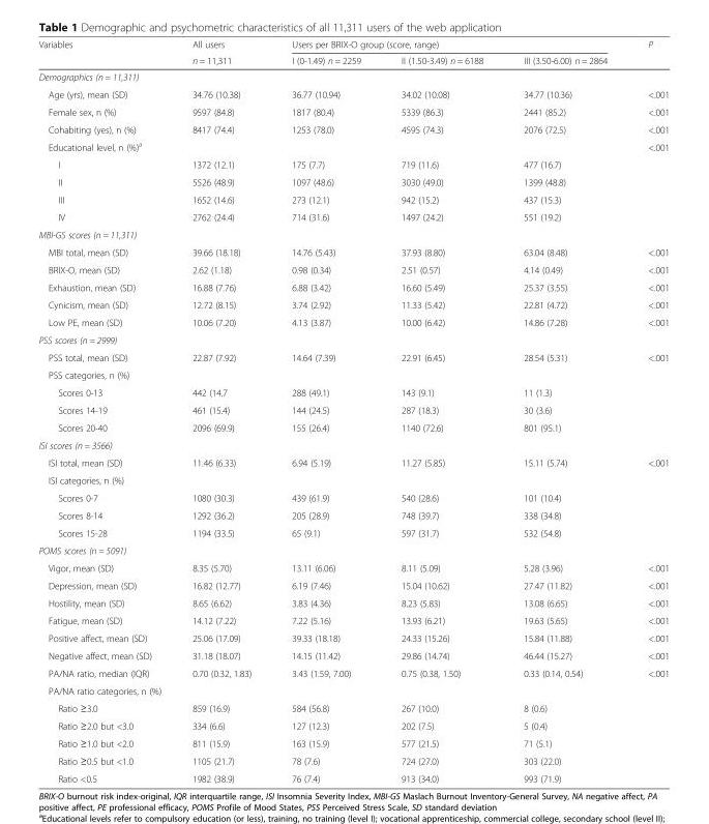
<table><thead><tr><td rowspan="2">Variables</td><td rowspan="2">All users n = 11,311</td><td colspan="3">Users per BRIX-O group (score, range)</td><td rowspan="2">P</td></tr><tr><td>I (0-1.49) n = 2259</td><td>II (1.50-3.49) n = 6188</td><td>III (3.50-6.00) n = 2864</td></tr></thead><tbody><tr><td colspan="6">Demographics (n = 11,311)</td></tr><tr><td>Age (yrs), mean (SD)</td><td>34.76 (10.38)</td><td>36.77 (10.94)</td><td>34.02 (10.08)</td><td>34.77 (10.36)</td><td>&lt;.001</td></tr><tr><td>Female sex, n (%)</td><td>9597 (84.8)</td><td>1817 (80.4)</td><td>5339 (86.3)</td><td>2441 (85.2)</td><td>&lt;.001</td></tr><tr><td>Cohabiting (yes), n (%)</td><td>8417 (74.4)</td><td>1253 (78.0)</td><td>4595 (74.3)</td><td>2076 (72.5)</td><td>&lt;.001</td></tr><tr><td>Educational level, n (%)<sup>a</sup></td><td></td><td></td><td></td><td></td><td>&lt;.001</td></tr><tr><td>I</td><td>1372 (12.1)</td><td>175 (7.7)</td><td>719 (11.6)</td><td>477 (16.7)</td><td rowspan="4"></td></tr><tr><td>II</td><td>5526 (48.9)</td><td>1097 (48.6)</td><td>3030 (49.0)</td><td>1399 (48.8)</td></tr><tr><td>III</td><td>1652 (14.6)</td><td>273 (12.1)</td><td>942 (15.2)</td><td>437 (15.3)</td></tr><tr><td>IV</td><td>2762 (24.4)</td><td>714 (31.6)</td><td>1497 (24.2)</td><td>551 (19.2)</td></tr><tr><td colspan="6">MBI-GS scores (n = 11,311)</td></tr><tr><td>MBI total, mean (SD)</td><td>39.66 (18.18)</td><td>14.76 (5.43)</td><td>37.93 (8.80)</td><td>63.04 (8.48)</td><td>&lt;.001</td></tr><tr><td>BRIX-O, mean (SD)</td><td>2.62 (1.18)</td><td>0.98 (0.34)</td><td>2.51 (0.57)</td><td>4.14 (0.49)</td><td>&lt;.001</td></tr><tr><td>Exhaustion, mean (SD)</td><td>16.88 (7.76)</td><td>6.88 (3.42)</td><td>16.60 (5.49)</td><td>25.37 (3.55)</td><td>&lt;.001</td></tr><tr><td>Cynicism, mean (SD)</td><td>12.72 (8.15)</td><td>3.74 (2.92)</td><td>11.33 (5.42)</td><td>22.81 (4.72)</td><td>&lt;.001</td></tr><tr><td>Low PE, mean (SD)</td><td>10.06 (7.20)</td><td>4.13 (3.87)</td><td>10.00 (6.42)</td><td>14.86 (7.28)</td><td>&lt;.001</td></tr><tr><td colspan="6">PSS scores (n = 2999)</td></tr><tr><td>PSS total, mean (SD)</td><td>22.87 (7.92)</td><td>14.64 (7.39)</td><td>22.91 (6.45)</td><td>28.54 (5.31)</td><td>&lt;.001</td></tr><tr><td colspan="5">PSS categories, n (%)</td><td rowspan="4"></td></tr><tr><td>Scores 0-13</td><td>442 (14.7</td><td>288 (49.1)</td><td>143 (9.1)</td><td>11 (1.3)</td></tr><tr><td>Scores 14-19</td><td>461 (15.4)</td><td>144 (24.5)</td><td>287 (18.3)</td><td>30 (3.6)</td></tr><tr><td>Scores 20-40</td><td>2096 (69.9)</td><td>155 (26.4)</td><td>1140 (72.6)</td><td>801 (95.1)</td></tr><tr><td colspan="6">ISI scores (n = 3566)</td></tr><tr><td>ISI total, mean (SD)</td><td>11.46 (6.33)</td><td>6.94 (5.19)</td><td>11.27 (5.85)</td><td>15.11 (5.74)</td><td>&lt;.001</td></tr><tr><td colspan="5">ISI categories, n (%)</td><td rowspan="4"></td></tr><tr><td>Scores 0-7</td><td>1080 (30.3)</td><td>439 (61.9)</td><td>540 (28.6)</td><td>101 (10.4)</td></tr><tr><td>Scores 8-14</td><td>1292 (36.2)</td><td>205 (28.9)</td><td>748 (39.7)</td><td>338 (34.8)</td></tr><tr><td>Scores 15-28</td><td>1194 (33.5)</td><td>65 (9.1)</td><td>597 (31.7)</td><td>532 (54.8)</td></tr><tr><td colspan="6">POMS scores (n = 5091)</td></tr><tr><td>Vigor, mean (SD)</td><td>8.35 (5.70)</td><td>13.11 (6.06)</td><td>8.11 (5.09)</td><td>5.28 (3.96)</td><td>&lt;.001</td></tr><tr><td>Depression, mean (SD)</td><td>16.82 (12.77)</td><td>6.19 (7.46)</td><td>15.04 (10.62)</td><td>27.47 (11.82)</td><td>&lt;.001</td></tr><tr><td>Hostility, mean (SD)</td><td>8.65 (6.62)</td><td>3.83 (4.36)</td><td>8.23 (5.83)</td><td>13.08 (6.65)</td><td>&lt;.001</td></tr><tr><td>Fatigue, mean (SD)</td><td>14.12 (7.22)</td><td>7.22 (5.16)</td><td>13.93 (6.21)</td><td>19.63 (5.65)</td><td>&lt;.001</td></tr><tr><td>Positive affect, mean (SD)</td><td>25.06 (17.09)</td><td>39.33 (18.18)</td><td>24.33 (15.26)</td><td>15.84 (11.88)</td><td>&lt;.001</td></tr><tr><td>Negative affect, mean (SD)</td><td>31.18 (18.07)</td><td>14.15 (11.42)</td><td>29.86 (14.74)</td><td>46.44 (15.27)</td><td>&lt;.001</td></tr><tr><td>PA/NA ratio, median (IQR)</td><td>0.70 (0.32, 1.83)</td><td>3.43 (1.59, 7.00)</td><td>0.75 (0.38, 1.50)</td><td>0.33 (0.14, 0.54)</td><td>&lt;.001</td></tr><tr><td colspan="5">PA/NA ratio categories, n (%)</td><td rowspan="6"></td></tr><tr><td>Ratio ≥3.0</td><td>859 (16.9)</td><td>584 (56.8)</td><td>267 (10.0)</td><td>8 (0.6)</td></tr><tr><td>Ratio ≥2.0 but &lt;3.0</td><td>334 (6.6)</td><td>127 (12.3)</td><td>202 (7.5)</td><td>5 (0.4)</td></tr><tr><td>Ratio ≥1.0 but &lt;2.0</td><td>811 (15.9)</td><td>163 (15.9)</td><td>577 (21.5)</td><td>71 (5.1)</td></tr><tr><td>Ratio ≥0.5 but &lt;1.0</td><td>1105 (21.7)</td><td>78 (7.6)</td><td>724 (27.0)</td><td>303 (22.0)</td></tr><tr><td>Ratio &lt;0.5</td><td>1982 (38.9)</td><td>76 (7.4)</td><td>913 (34.0)</td><td>993 (71.9)</td></tr></tbody></table>